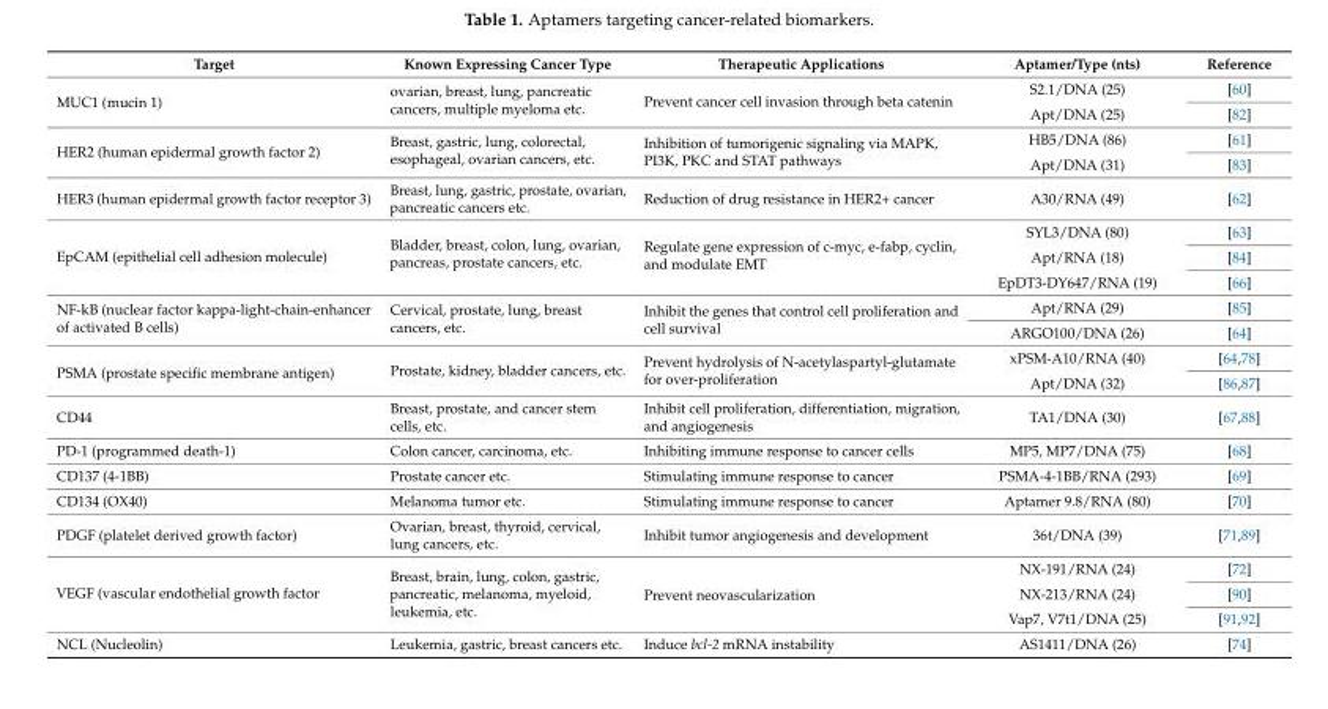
<table><thead><tr><td>Target</td><td>Known Expressing Cancer Type</td><td>Therapeutic Applications</td><td>Aptamer/Type (nts)</td><td>Reference</td></tr></thead><tbody><tr><td rowspan="2">MUC1 (mucin 1)</td><td rowspan="2">ovarian, breast, lung, pancreatic cancers, multiple myeloma etc.</td><td rowspan="2">Prevent cancer cell invasion through beta catenin</td><td>S2.1/DNA (25)</td><td>[60]</td></tr><tr><td>Apt/DNA (25)</td><td>[82]</td></tr><tr><td rowspan="2">HER2 (human epidermal growth factor 2)</td><td rowspan="2">Breast, gastric, lung, colorectal, esophageal, ovarian cancers, etc.</td><td rowspan="2">Inhibition of tumorigenic signaling via MAPK, PI3K, PKC and STAT pathways</td><td>HB5/DNA (86)</td><td>[61]</td></tr><tr><td>Apt/DNA (31)</td><td>[83]</td></tr><tr><td>HER3 (human epidermal growth factor receptor 3)</td><td>Breast, lung, gastric, prostate, ovarian, pancreatic cancers etc.</td><td>Reduction of drug resistance in HER2+ cancer</td><td>A30/RNA (49)</td><td>[62]</td></tr><tr><td rowspan="3">EpCAM (epithelial cell adhesion molecule)</td><td rowspan="3">Bladder, breast, colon, lung, ovarian, pancreas, prostate cancers, etc.</td><td rowspan="3">Regulate gene expression of c-myc, e-fabp, cyclin, and modulate EMT</td><td>SYL3/DNA (80)</td><td>[63]</td></tr><tr><td>Apt/RNA (18)</td><td>[84]</td></tr><tr><td>EpDT3-DY647/RNA (19)</td><td>[66]</td></tr><tr><td rowspan="2">NF-kB (nuclear factor kappa-light-chain-enhancer of activated B cells)</td><td rowspan="2">Cervical, prostate, lung, breast cancers, etc.</td><td rowspan="2">Inhibit the genes that control cell proliferation and cell survival</td><td>Apt/RNA (29)</td><td>[85]</td></tr><tr><td>ARGO100/DNA (26)</td><td>[64]</td></tr><tr><td rowspan="2">PSMA (prostate specific membrane antigen)</td><td rowspan="2">Prostate, kidney, bladder cancers, etc.</td><td rowspan="2">Prevent hydrolysis of N-acetylaspartyl-glutamate for over-proliferation</td><td>xPSM-A10/RNA (40)</td><td>[64,78]</td></tr><tr><td>Apt/DNA (32)</td><td>[86,87]</td></tr><tr><td>CD44</td><td>Breast, prostate, and cancer stem cells, etc.</td><td>Inhibit cell proliferation, differentiation, migration, and angiogenesis</td><td>TA1/DNA (30)</td><td>[67,88]</td></tr><tr><td>PD-1 (programmed death-1)</td><td>Colon cancer, carcinoma, etc.</td><td>Inhibiting immune response to cancer cells</td><td>MP5, MP7/DNA (75)</td><td>[68]</td></tr><tr><td>CD137 (4-1BB)</td><td>Prostate cancer etc.</td><td>Stimulating immune response to cancer</td><td>PSMA-4-1BB/RNA (293)</td><td>[69]</td></tr><tr><td>CD134 (OX40)</td><td>Melanoma tumor etc.</td><td>Stimulating immune response to cancer</td><td>Aptamer 9.8/RNA (80)</td><td>[70]</td></tr><tr><td>PDGF (platelet derived growth factor)</td><td>Ovarian, breast, thyroid, cervical, lung cancers, etc.</td><td>Inhibit tumor angiogenesis and development</td><td>36t/DNA (39)</td><td>[71,89]</td></tr><tr><td rowspan="3">VEGF (vascular endothelial growth factor</td><td rowspan="3">Breast, brain, lung, colon, gastric, pancreatic, melanoma, myeloid, leukemia, etc.</td><td rowspan="3">Prevent neovascularization</td><td>NX-191/RNA (24)</td><td>[72]</td></tr><tr><td>NX-213/RNA (24)</td><td>[90]</td></tr><tr><td>Vap7, V7t1/DNA (25)</td><td>[91,92]</td></tr><tr><td>NCL (Nucleolin)</td><td>Leukemia, gastric, breast cancers etc.</td><td>Induce bcl-2 mRNA instability</td><td>AS1411/DNA (26)</td><td>[74]</td></tr></tbody></table>